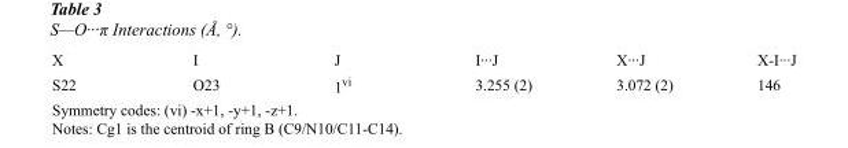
<table><tbody><tr><td>X</td><td>I</td><td>J</td><td>I···J</td><td>X···J</td><td>X-I···J</td></tr><tr><td>S22</td><td>O23</td><td>1<sup>vi</sup></td><td>3.255 (2)</td><td>3.072 (2)</td><td>146</td></tr></tbody></table>